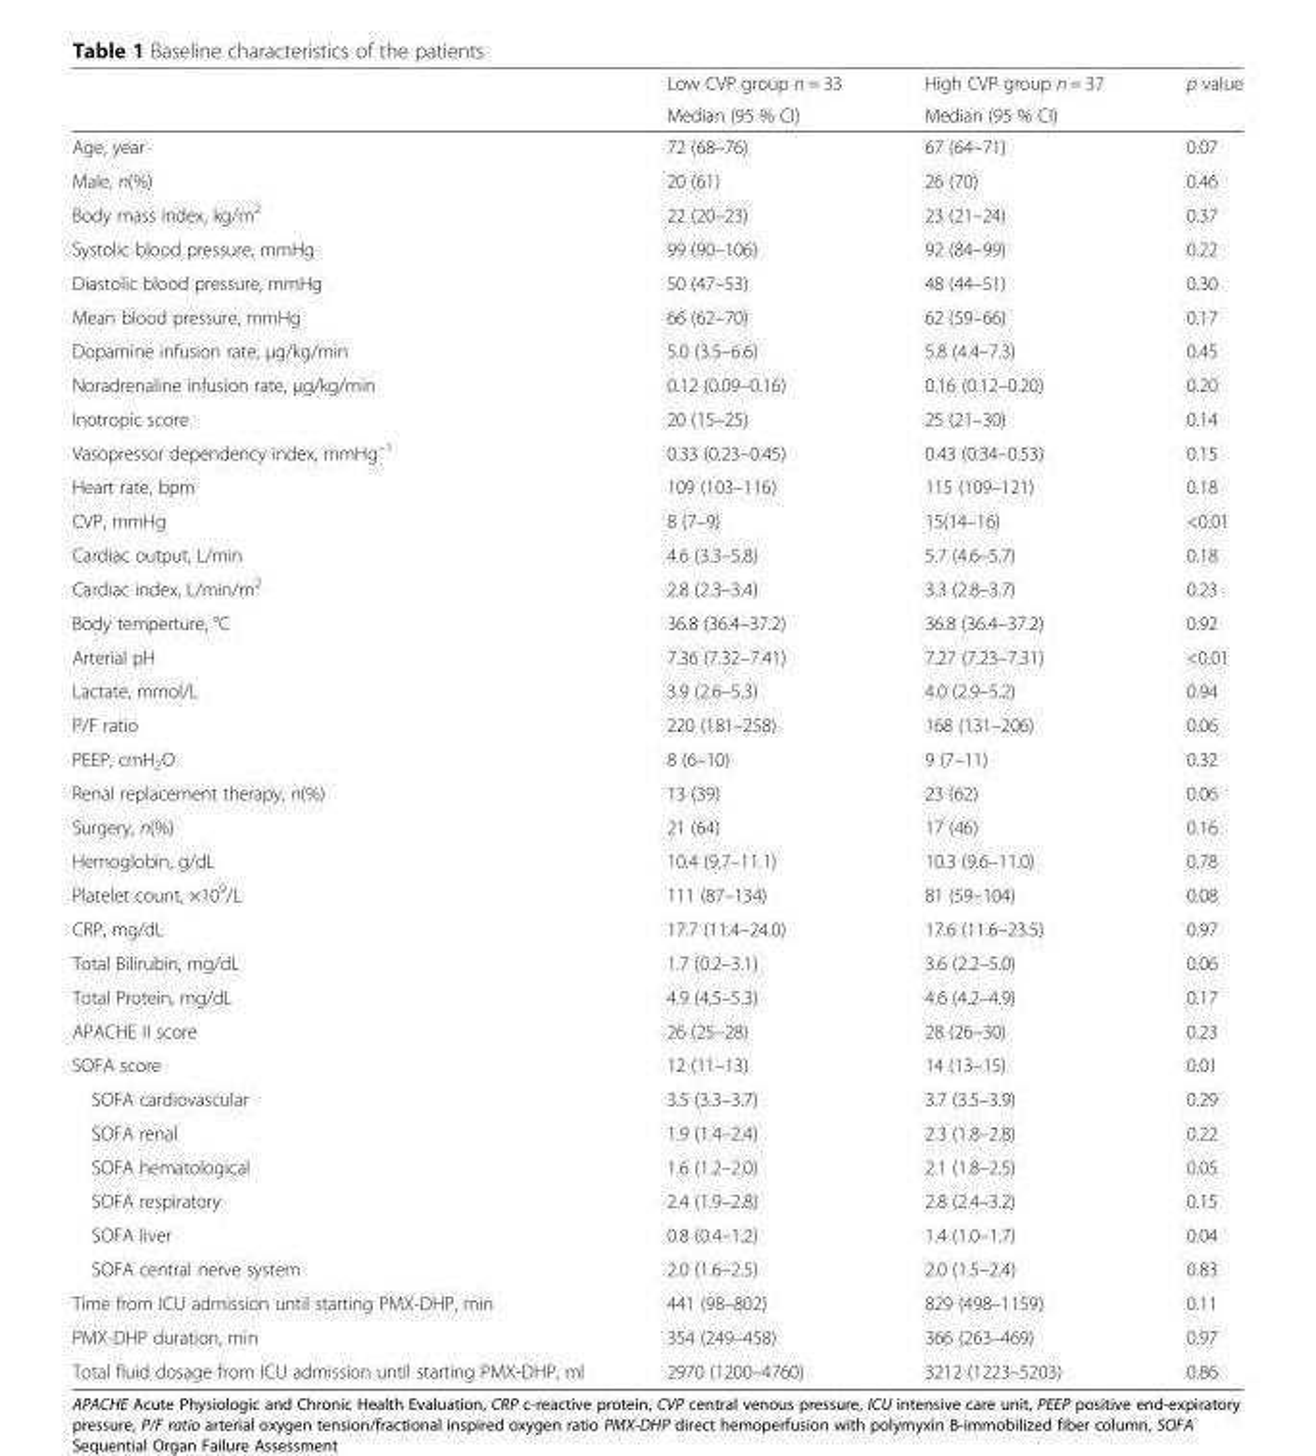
<table><thead><tr><td rowspan="2"></td><td rowspan="2">Low CVP group n = 33 Median (95 % CI)</td><td rowspan="2">High CVP group n = 37 Median (95 % CI)</td><td rowspan="2">p value</td></tr><tr></tr></thead><tbody><tr><td>Age, year</td><td>72 (68–76)</td><td>67 (64–71)</td><td>0.07</td></tr><tr><td>Male, n(%)</td><td>20 (61)</td><td>26 (70)</td><td>0.46</td></tr><tr><td>Body mass index, kg/m<sup>2</sup></td><td>22 (20–23)</td><td>23 (21–24)</td><td>0.37</td></tr><tr><td>Systolic blood pressure, mmHg</td><td>99 (90–106)</td><td>92 (84–99)</td><td>0.22</td></tr><tr><td>Diastolic blood pressure, mmHg</td><td>50 (47–53)</td><td>48 (44–51)</td><td>0.30</td></tr><tr><td>Mean blood pressure, mmHg</td><td>66 (62–70)</td><td>62 (59–66)</td><td>0.17</td></tr><tr><td>Dopamine infusion rate, μg/kg/min</td><td>5.0 (3.5–6.6)</td><td>5.8 (4.4–7.3)</td><td>0.45</td></tr><tr><td>Noradrenaline infusion rate, μg/kg/min</td><td>0.12 (0.09–0.16)</td><td>0.16 (0.12–0.20)</td><td>0.20</td></tr><tr><td>Inotropic score</td><td>20 (15–25)</td><td>25 (21–30)</td><td>0.14</td></tr><tr><td>Vasopressor dependency index, mmHg<sup>−1</sup></td><td>0.33 (0.23–0.45)</td><td>0.43 (0.34–0.53)</td><td>0.15</td></tr><tr><td>Heart rate, bpm</td><td>109 (103–116)</td><td>115 (109–121)</td><td>0.18</td></tr><tr><td>CVP, mmHg</td><td>8 (7–9)</td><td>15(14–16)</td><td>&lt;0.01</td></tr><tr><td>Cardiac output, L/min</td><td>4.6 (3.3–5.8)</td><td>5.7 (4.6–5.7)</td><td>0.18</td></tr><tr><td>Cardiac index, L/min/m<sup>2</sup></td><td>2.8 (2.3–3.4)</td><td>3.3 (2.8–3.7)</td><td>0.23</td></tr><tr><td>Body temperture, °C</td><td>36.8 (36.4–37.2)</td><td>36.8 (36.4–37.2)</td><td>0.92</td></tr><tr><td>Arterial pH</td><td>7.36 (7.32–7.41)</td><td>7.27 (7.23–7.31)</td><td>&lt;0.01</td></tr><tr><td>Lactate, mmol/L</td><td>3.9 (2.6–5.3)</td><td>4.0 (2.9–5.2)</td><td>0.94</td></tr><tr><td>P/F ratio</td><td>220 (181–258)</td><td>168 (131–206)</td><td>0.06</td></tr><tr><td>PEEP, cmH<sub>2</sub>O</td><td>8 (6–10)</td><td>9 (7–11)</td><td>0.32</td></tr><tr><td>Renal replacement therapy, n(%)</td><td>13 (39)</td><td>23 (62)</td><td>0.06</td></tr><tr><td>Surgery, n(%)</td><td>21 (64)</td><td>17 (46)</td><td>0.16</td></tr><tr><td>Hemoglobin, g/dL</td><td>10.4 (9.7–11.1)</td><td>10.3 (9.6–11.0)</td><td>0.78</td></tr><tr><td>Platelet count, ×10<sup>9</sup>/L</td><td>111 (87–134)</td><td>81 (59–104)</td><td>0.08</td></tr><tr><td>CRP, mg/dL</td><td>17.7 (11.4–24.0)</td><td>17.6 (11.6–23.5)</td><td>0.97</td></tr><tr><td>Total Bilirubin, mg/dL</td><td>1.7 (0.2–3.1)</td><td>3.6 (2.2–5.0)</td><td>0.06</td></tr><tr><td>Total Protein, mg/dL</td><td>4.9 (4.5–5.3)</td><td>4.6 (4.2–4.9)</td><td>0.17</td></tr><tr><td>APACHE II score</td><td>26 (25–28)</td><td>28 (26–30)</td><td>0.23</td></tr><tr><td>SOFA score</td><td>12 (11–13)</td><td>14 (13–15)</td><td>0.01</td></tr><tr><td>SOFA cardiovascular</td><td>3.5 (3.3–3.7)</td><td>3.7 (3.5–3.9)</td><td>0.29</td></tr><tr><td>SOFA renal</td><td>1.9 (1.4–2.4)</td><td>2.3 (1.8–2.8)</td><td>0.22</td></tr><tr><td>SOFA hematological</td><td>1.6 (1.2–2.0)</td><td>2.1 (1.8–2.5)</td><td>0.05</td></tr><tr><td>SOFA respiratory</td><td>2.4 (1.9–2.8)</td><td>2.8 (2.4–3.2)</td><td>0.15</td></tr><tr><td>SOFA liver</td><td>0.8 (0.4–1.2)</td><td>1.4 (1.0–1.7)</td><td>0.04</td></tr><tr><td>SOFA central nerve system</td><td>2.0 (1.6–2.5)</td><td>2.0 (1.5–2.4)</td><td>0.83</td></tr><tr><td>Time from ICU admission until starting PMX-DHP, min</td><td>441 (98–802)</td><td>829 (498–1159)</td><td>0.11</td></tr><tr><td>PMX-DHP duration, min</td><td>354 (249–458)</td><td>366 (263–469)</td><td>0.97</td></tr><tr><td>Total fluid dosage from ICU admission until starting PMX-DHP, ml</td><td>2970 (1200–4760)</td><td>3212 (1223–5203)</td><td>0.86</td></tr></tbody></table>